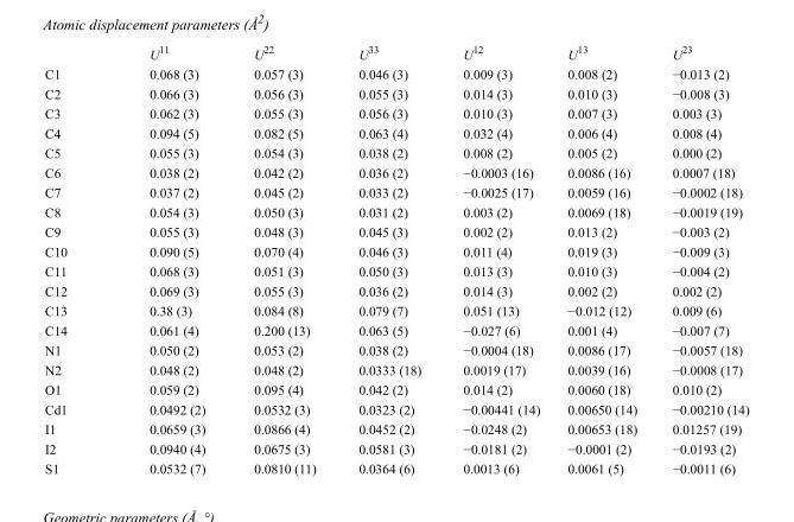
<table><thead><tr><td></td><td>U<sup>11</sup></td><td>U<sup>22</sup></td><td>U<sup>33</sup></td><td>U<sup>12</sup></td><td>U<sup>13</sup></td><td>U<sup>23</sup></td></tr></thead><tbody><tr><td>C1</td><td>0.068 (3)</td><td>0.057 (3)</td><td>0.046 (3)</td><td>0.009 (3)</td><td>0.008 (2)</td><td>−0.013 (2)</td></tr><tr><td>C2</td><td>0.066 (3)</td><td>0.056 (3)</td><td>0.055 (3)</td><td>0.014 (3)</td><td>0.010 (3)</td><td>−0.008 (3)</td></tr><tr><td>C3</td><td>0.062 (3)</td><td>0.055 (3)</td><td>0.056 (3)</td><td>0.010 (3)</td><td>0.007 (3)</td><td>0.003 (3)</td></tr><tr><td>C4</td><td>0.094 (5)</td><td>0.082 (5)</td><td>0.063 (4)</td><td>0.032 (4)</td><td>0.006 (4)</td><td>0.008 (4)</td></tr><tr><td>C5</td><td>0.055 (3)</td><td>0.054 (3)</td><td>0.038 (2)</td><td>0.008 (2)</td><td>0.005 (2)</td><td>0.000 (2)</td></tr><tr><td>C6</td><td>0.038 (2)</td><td>0.042 (2)</td><td>0.036 (2)</td><td>−0.0003 (16)</td><td>0.0086 (16)</td><td>0.0007 (18)</td></tr><tr><td>C7</td><td>0.037 (2)</td><td>0.045 (2)</td><td>0.033 (2)</td><td>−0.0025 (17)</td><td>0.0059 (16)</td><td>−0.0002 (18)</td></tr><tr><td>C8</td><td>0.054 (3)</td><td>0.050 (3)</td><td>0.031 (2)</td><td>0.003 (2)</td><td>0.0069 (18)</td><td>−0.0019 (19)</td></tr><tr><td>C9</td><td>0.055 (3)</td><td>0.048 (3)</td><td>0.045 (3)</td><td>0.002 (2)</td><td>0.013 (2)</td><td>−0.003 (2)</td></tr><tr><td>C10</td><td>0.090 (5)</td><td>0.070 (4)</td><td>0.046 (3)</td><td>0.011 (4)</td><td>0.019 (3)</td><td>−0.009 (3)</td></tr><tr><td>C11</td><td>0.068 (3)</td><td>0.051 (3)</td><td>0.050 (3)</td><td>0.013 (3)</td><td>0.010 (3)</td><td>−0.004 (2)</td></tr><tr><td>C12</td><td>0.069 (3)</td><td>0.055 (3)</td><td>0.036 (2)</td><td>0.014 (3)</td><td>0.002 (2)</td><td>0.002 (2)</td></tr><tr><td>C13</td><td>0.38 (3)</td><td>0.084 (8)</td><td>0.079 (7)</td><td>0.051 (13)</td><td>−0.012 (12)</td><td>0.009 (6)</td></tr><tr><td>C14</td><td>0.061 (4)</td><td>0.200 (13)</td><td>0.063 (5)</td><td>−0.027 (6)</td><td>0.001 (4)</td><td>−0.007 (7)</td></tr><tr><td>N1</td><td>0.050 (2)</td><td>0.053 (2)</td><td>0.038 (2)</td><td>−0.0004 (18)</td><td>0.0086 (17)</td><td>−0.0057 (18)</td></tr><tr><td>N2</td><td>0.048 (2)</td><td>0.048 (2)</td><td>0.0333 (18)</td><td>0.0019 (17)</td><td>0.0039 (16)</td><td>−0.0008 (17)</td></tr><tr><td>O1</td><td>0.059 (2)</td><td>0.095 (4)</td><td>0.042 (2)</td><td>0.014 (2)</td><td>0.0060 (18)</td><td>0.010 (2)</td></tr><tr><td>Cd1</td><td>0.0492 (2)</td><td>0.0532 (3)</td><td>0.0323 (2)</td><td>−0.00441 (14)</td><td>0.00650 (14)</td><td>−0.00210 (14)</td></tr><tr><td>I1</td><td>0.0659 (3)</td><td>0.0866 (4)</td><td>0.0452 (2)</td><td>−0.0248 (2)</td><td>0.00653 (18)</td><td>0.01257 (19)</td></tr><tr><td>I2</td><td>0.0940 (4)</td><td>0.0675 (3)</td><td>0.0581 (3)</td><td>−0.0181 (2)</td><td>−0.0001 (2)</td><td>−0.0193 (2)</td></tr><tr><td>S1</td><td>0.0532 (7)</td><td>0.0810 (11)</td><td>0.0364 (6)</td><td>0.0013 (6)</td><td>0.0061 (5)</td><td>−0.0011 (6)</td></tr></tbody></table>